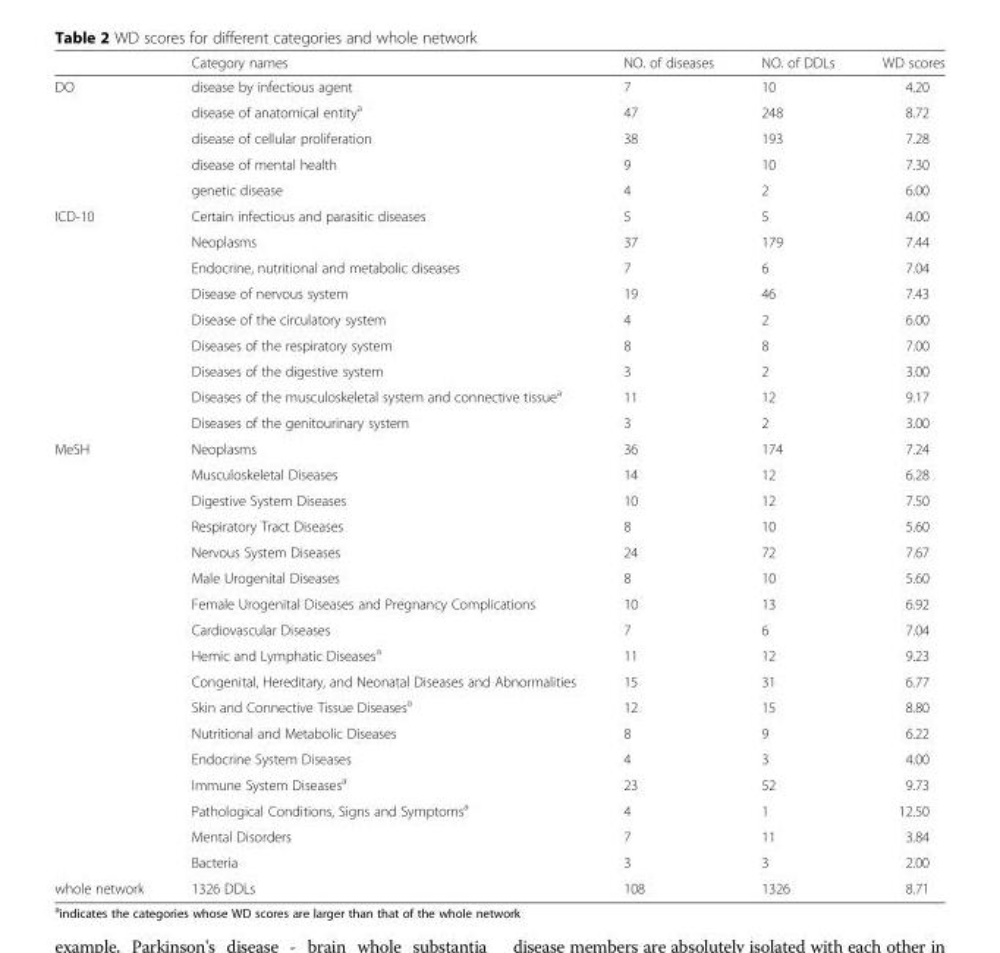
<table><thead><tr><td></td><td>Category names</td><td>NO. of diseases</td><td>NO. of DDLs</td><td>WD scores</td></tr></thead><tbody><tr><td rowspan="5">DO</td><td>disease by infectious agent</td><td>7</td><td>10</td><td>4.20</td></tr><tr><td>disease of anatomical entity<sup>a</sup></td><td>47</td><td>248</td><td>8.72</td></tr><tr><td>disease of cellular proliferation</td><td>38</td><td>193</td><td>7.28</td></tr><tr><td>disease of mental health</td><td>9</td><td>10</td><td>7.30</td></tr><tr><td>genetic disease</td><td>4</td><td>2</td><td>6.00</td></tr><tr><td rowspan="9">ICD-10</td><td>Certain infectious and parasitic diseases</td><td>5</td><td>5</td><td>4.00</td></tr><tr><td>Neoplasms</td><td>37</td><td>179</td><td>7.44</td></tr><tr><td>Endocrine, nutritional and metabolic diseases</td><td>7</td><td>6</td><td>7.04</td></tr><tr><td>Disease of nervous system</td><td>19</td><td>46</td><td>7.43</td></tr><tr><td>Disease of the circulatory system</td><td>4</td><td>2</td><td>6.00</td></tr><tr><td>Diseases of the respiratory system</td><td>8</td><td>8</td><td>7.00</td></tr><tr><td>Diseases of the digestive system</td><td>3</td><td>2</td><td>3.00</td></tr><tr><td>Diseases of the musculoskeletal system and connective tissue<sup>a</sup></td><td>11</td><td>12</td><td>9.17</td></tr><tr><td>Diseases of the genitourinary system</td><td>3</td><td>2</td><td>3.00</td></tr><tr><td rowspan="17">MeSH</td><td>Neoplasms</td><td>36</td><td>174</td><td>7.24</td></tr><tr><td>Musculoskeletal Diseases</td><td>14</td><td>12</td><td>6.28</td></tr><tr><td>Digestive System Diseases</td><td>10</td><td>12</td><td>7.50</td></tr><tr><td>Respiratory Tract Diseases</td><td>8</td><td>10</td><td>5.60</td></tr><tr><td>Nervous System Diseases</td><td>24</td><td>72</td><td>7.67</td></tr><tr><td>Male Urogenital Diseases</td><td>8</td><td>10</td><td>5.60</td></tr><tr><td>Female Urogenital Diseases and Pregnancy Complications</td><td>10</td><td>13</td><td>6.92</td></tr><tr><td>Cardiovascular Diseases</td><td>7</td><td>6</td><td>7.04</td></tr><tr><td>Hemic and Lymphatic Diseases<sup>a</sup></td><td>11</td><td>12</td><td>9.23</td></tr><tr><td>Congenital, Hereditary, and Neonatal Diseases and Abnormalities</td><td>15</td><td>31</td><td>6.77</td></tr><tr><td>Skin and Connective Tissue Diseases<sup>a</sup></td><td>12</td><td>15</td><td>8.80</td></tr><tr><td>Nutritional and Metabolic Diseases</td><td>8</td><td>9</td><td>6.22</td></tr><tr><td>Endocrine System Diseases</td><td>4</td><td>3</td><td>4.00</td></tr><tr><td>Immune System Diseases<sup>a</sup></td><td>23</td><td>52</td><td>9.73</td></tr><tr><td>Pathological Conditions, Signs and Symptoms<sup>a</sup></td><td>4</td><td>1</td><td>12.50</td></tr><tr><td>Mental Disorders</td><td>7</td><td>11</td><td>3.84</td></tr><tr><td>Bacteria</td><td>3</td><td>3</td><td>2.00</td></tr><tr><td>whole network</td><td>1326 DDLs</td><td>108</td><td>1326</td><td>8.71</td></tr></tbody></table>